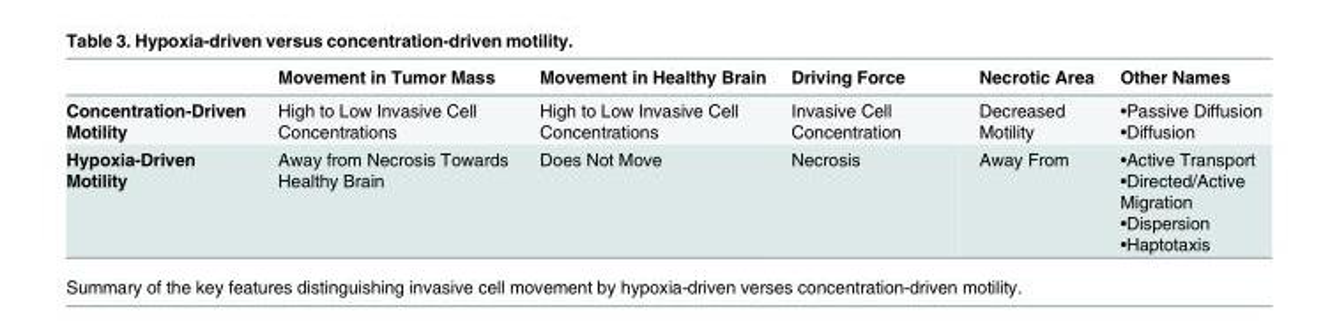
<table><thead><tr><td></td><td>Movement in Tumor Mass</td><td>Movement in Healthy Brain</td><td>Driving Force</td><td>Necrotic Area</td><td>Other Names</td></tr></thead><tbody><tr><td>Concentration-Driven Motility</td><td>High to Low Invasive Cell Concentrations</td><td>High to Low Invasive Cell Concentrations</td><td>Invasive Cell Concentration</td><td>Decreased Motility</td><td>•Passive Diffusion •Diffusion</td></tr><tr><td>Hypoxia-Driven Motility</td><td>Away from Necrosis Towards Healthy Brain</td><td>Does Not Move</td><td>Necrosis</td><td>Away From</td><td>•Active Transport •Directed/Active Migration •Dispersion •Haptotaxis</td></tr></tbody></table>